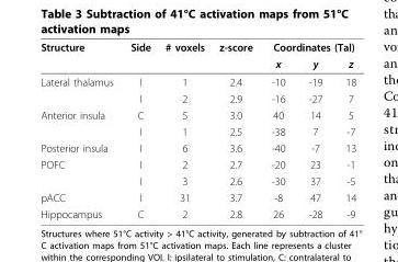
<table><thead><tr><td rowspan="2">Structure</td><td rowspan="2">Side</td><td rowspan="2"># voxels</td><td rowspan="2">z-score</td><td colspan="3">Coordinates (Tal)</td></tr><tr><td>x</td><td>y</td><td>z</td></tr></thead><tbody><tr><td rowspan="2">Lateral thalamus</td><td>I</td><td>1</td><td>2.4</td><td>-10</td><td>-19</td><td>18</td></tr><tr><td>I</td><td>2</td><td>2.9</td><td>-16</td><td>-27</td><td>7</td></tr><tr><td rowspan="2">Anterior insula</td><td>C</td><td>5</td><td>3.0</td><td>40</td><td>14</td><td>5</td></tr><tr><td>I</td><td>1</td><td>2.5</td><td>-38</td><td>7</td><td>-7</td></tr><tr><td>Posterior insula</td><td>I</td><td>6</td><td>3.6</td><td>-40</td><td>-7</td><td>13</td></tr><tr><td rowspan="2">POFC</td><td>I</td><td>2</td><td>2.7</td><td>-20</td><td>23</td><td>-1</td></tr><tr><td>I</td><td>3</td><td>2.6</td><td>-30</td><td>37</td><td>-5</td></tr><tr><td>pACC</td><td>I</td><td>31</td><td>3.7</td><td>-8</td><td>47</td><td>14</td></tr><tr><td>Hippocampus</td><td>C</td><td>2</td><td>2.8</td><td>26</td><td>-28</td><td>-9</td></tr></tbody></table>